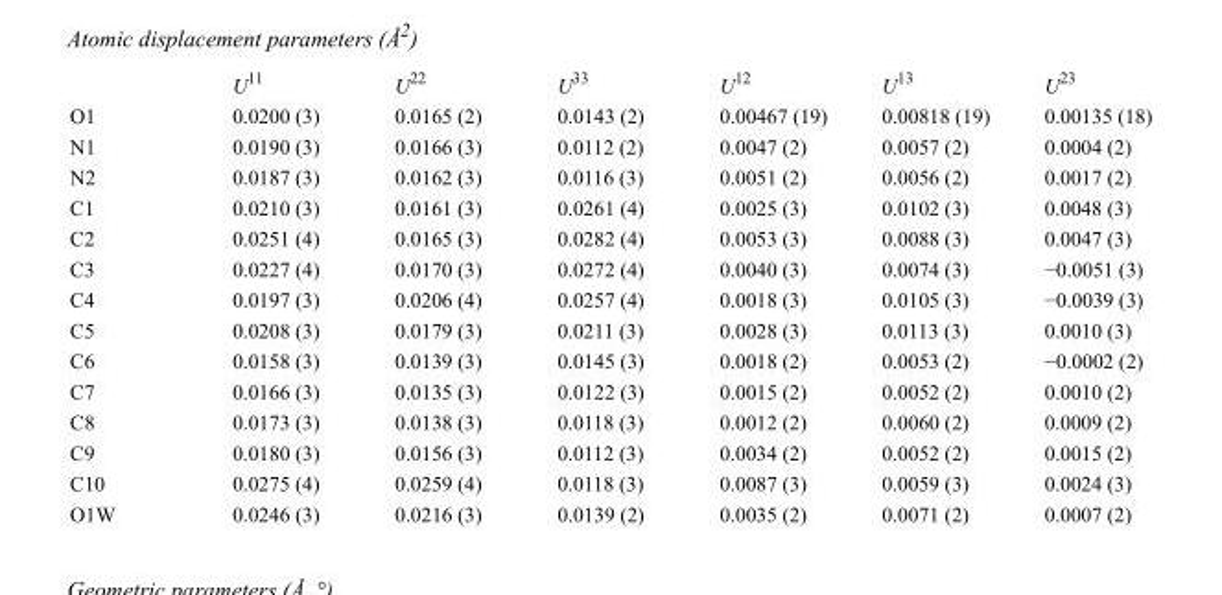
<table><thead><tr><td></td><td>U<sup>11</sup></td><td>U<sup>22</sup></td><td>U<sup>33</sup></td><td>U<sup>12</sup></td><td>U<sup>13</sup></td><td>U<sup>23</sup></td></tr></thead><tbody><tr><td>O1</td><td>0.0200 (3)</td><td>0.0165 (2)</td><td>0.0143 (2)</td><td>0.00467 (19)</td><td>0.00818 (19)</td><td>0.00135 (18)</td></tr><tr><td>N1</td><td>0.0190 (3)</td><td>0.0166 (3)</td><td>0.0112 (2)</td><td>0.0047 (2)</td><td>0.0057 (2)</td><td>0.0004 (2)</td></tr><tr><td>N2</td><td>0.0187 (3)</td><td>0.0162 (3)</td><td>0.0116 (3)</td><td>0.0051 (2)</td><td>0.0056 (2)</td><td>0.0017 (2)</td></tr><tr><td>C1</td><td>0.0210 (3)</td><td>0.0161 (3)</td><td>0.0261 (4)</td><td>0.0025 (3)</td><td>0.0102 (3)</td><td>0.0048 (3)</td></tr><tr><td>C2</td><td>0.0251 (4)</td><td>0.0165 (3)</td><td>0.0282 (4)</td><td>0.0053 (3)</td><td>0.0088 (3)</td><td>0.0047 (3)</td></tr><tr><td>C3</td><td>0.0227 (4)</td><td>0.0170 (3)</td><td>0.0272 (4)</td><td>0.0040 (3)</td><td>0.0074 (3)</td><td>−0.0051 (3)</td></tr><tr><td>C4</td><td>0.0197 (3)</td><td>0.0206 (4)</td><td>0.0257 (4)</td><td>0.0018 (3)</td><td>0.0105 (3)</td><td>−0.0039 (3)</td></tr><tr><td>C5</td><td>0.0208 (3)</td><td>0.0179 (3)</td><td>0.0211 (3)</td><td>0.0028 (3)</td><td>0.0113 (3)</td><td>0.0010 (3)</td></tr><tr><td>C6</td><td>0.0158 (3)</td><td>0.0139 (3)</td><td>0.0145 (3)</td><td>0.0018 (2)</td><td>0.0053 (2)</td><td>−0.0002 (2)</td></tr><tr><td>C7</td><td>0.0166 (3)</td><td>0.0135 (3)</td><td>0.0122 (3)</td><td>0.0015 (2)</td><td>0.0052 (2)</td><td>0.0010 (2)</td></tr><tr><td>C8</td><td>0.0173 (3)</td><td>0.0138 (3)</td><td>0.0118 (3)</td><td>0.0012 (2)</td><td>0.0060 (2)</td><td>0.0009 (2)</td></tr><tr><td>C9</td><td>0.0180 (3)</td><td>0.0156 (3)</td><td>0.0112 (3)</td><td>0.0034 (2)</td><td>0.0052 (2)</td><td>0.0015 (2)</td></tr><tr><td>C10</td><td>0.0275 (4)</td><td>0.0259 (4)</td><td>0.0118 (3)</td><td>0.0087 (3)</td><td>0.0059 (3)</td><td>0.0024 (3)</td></tr><tr><td>O1W</td><td>0.0246 (3)</td><td>0.0216 (3)</td><td>0.0139 (2)</td><td>0.0035 (2)</td><td>0.0071 (2)</td><td>0.0007 (2)</td></tr></tbody></table>